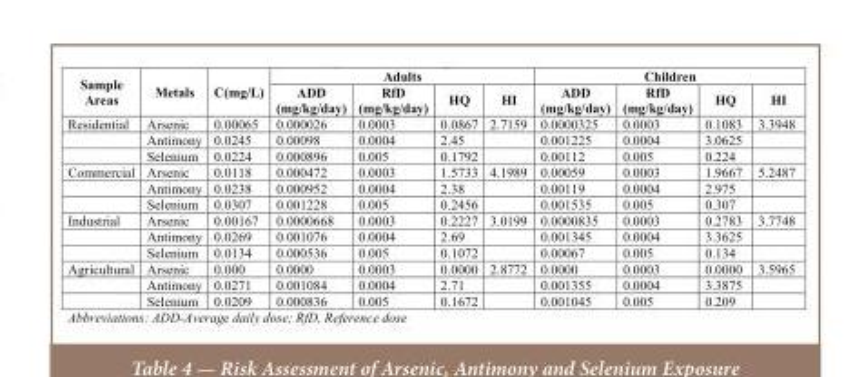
<table><thead><tr><td rowspan="2">Sample Areas</td><td rowspan="2">Metals</td><td rowspan="2">C(mg/L)</td><td colspan="4">Adults</td><td colspan="4">Children</td></tr><tr><td>ADD (mg/kg/day)</td><td>RfD (mg/kg/day)</td><td>HQ</td><td>HI</td><td>ADD (mg/kg/day)</td><td>RfD (mg/kg/day)</td><td>HQ</td><td>HI</td></tr></thead><tbody><tr><td rowspan="3">Residential</td><td>Arsenic</td><td>0.00065</td><td>0.000026</td><td>0.0003</td><td>0.0867</td><td>2.7159</td><td>0.0000325</td><td>0.0003</td><td>0.1083</td><td>3.3948</td></tr><tr><td>Antimony</td><td>0.0245</td><td>0.00098</td><td>0.0004</td><td>2.45</td><td></td><td>0.001225</td><td>0.0004</td><td>3.0625</td><td></td></tr><tr><td>Selenium</td><td>0.0224</td><td>0.000896</td><td>0.005</td><td>0.1792</td><td></td><td>0.00112</td><td>0.005</td><td>0.224</td><td></td></tr><tr><td rowspan="3">Commercial</td><td>Arsenic</td><td>0.0118</td><td>0.000472</td><td>0.0003</td><td>1.5733</td><td>4.1989</td><td>0.00059</td><td>0.0003</td><td>1.9667</td><td>5.2487</td></tr><tr><td>Antimony</td><td>0.0238</td><td>0.000952</td><td>0.0004</td><td>2.38</td><td></td><td>0.00119</td><td>0.0004</td><td>2.975</td><td></td></tr><tr><td>Selenium</td><td>0.0307</td><td>0.001228</td><td>0.005</td><td>0.2456</td><td></td><td>0.001535</td><td>0.005</td><td>0.307</td><td></td></tr><tr><td rowspan="3">Industrial</td><td>Arsenic</td><td>0.00167</td><td>0.0000668</td><td>0.0003</td><td>0.2227</td><td>3.0199</td><td>0.0000835</td><td>0.0003</td><td>0.2783</td><td>3.7748</td></tr><tr><td>Antimony</td><td>0.0269</td><td>0.001076</td><td>0.0004</td><td>2.69</td><td></td><td>0.001345</td><td>0.0004</td><td>3.3625</td><td></td></tr><tr><td>Selenium</td><td>0.0134</td><td>0.000536</td><td>0.005</td><td>0.1072</td><td></td><td>0.00067</td><td>0.005</td><td>0.134</td><td></td></tr><tr><td rowspan="3">Agricultural</td><td>Arsenic</td><td>0.000</td><td>0.0000</td><td>0.0003</td><td>0.0000</td><td>2.8772</td><td>0.0000</td><td>0.0003</td><td>0.0000</td><td>3.5965</td></tr><tr><td>Antimony</td><td>0.0271</td><td>0.001084</td><td>0.0004</td><td>2.71</td><td></td><td>0.001355</td><td>0.0004</td><td>3.3875</td><td></td></tr><tr><td>Selenium</td><td>0.0209</td><td>0.000836</td><td>0.005</td><td>0.1672</td><td></td><td>0.001045</td><td>0.005</td><td>0.209</td><td></td></tr></tbody></table>